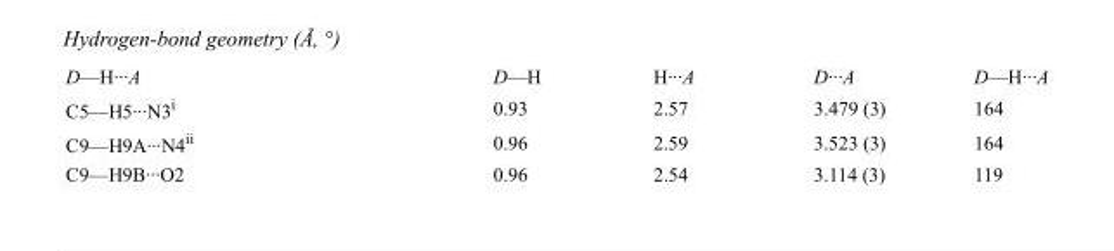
<table><tbody><tr><td>D—H···A</td><td>D—H</td><td>H···A</td><td>D···A</td><td>D—H···A</td></tr><tr><td>C5—H5···N3<sup>i</sup></td><td>0.93</td><td>2.57</td><td>3.479 (3)</td><td>164</td></tr><tr><td>C9—H9A···N4<sup>ii</sup></td><td>0.96</td><td>2.59</td><td>3.523 (3)</td><td>164</td></tr><tr><td>C9—H9B···O2</td><td>0.96</td><td>2.54</td><td>3.114 (3)</td><td>119</td></tr></tbody></table>